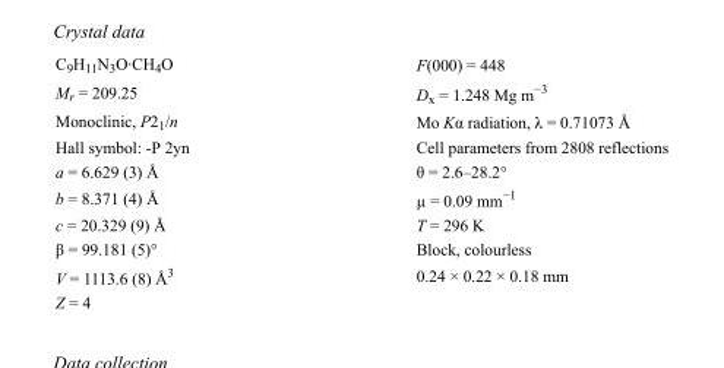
<table><tbody><tr><td>C<sub>9</sub>H<sub>11</sub>N<sub>3</sub>O·CH<sub>4</sub>O</td><td>F(000) = 448</td></tr><tr><td>M<sub>r</sub> = 209.25</td><td>D<sub>x</sub> = 1.248 Mg m<sup>−3</sup></td></tr><tr><td>Monoclinic, P2<sub>1</sub>/n</td><td>Mo Kα radiation, λ = 0.71073 Å</td></tr><tr><td>Hall symbol: -P 2yn</td><td>Cell parameters from 2808 reflections</td></tr><tr><td>a = 6.629 (3) Å</td><td>θ = 2.6–28.2°</td></tr><tr><td>b = 8.371 (4) Å</td><td>µ = 0.09 mm<sup>−1</sup></td></tr><tr><td>c = 20.329 (9) Å</td><td>T = 296 K</td></tr><tr><td>β = 99.181 (5)°</td><td>Block, colourless</td></tr><tr><td>V = 1113.6 (8) Å<sup>3</sup></td><td>0.24 × 0.22 × 0.18 mm</td></tr><tr><td>Z = 4</td><td></td></tr></tbody></table>